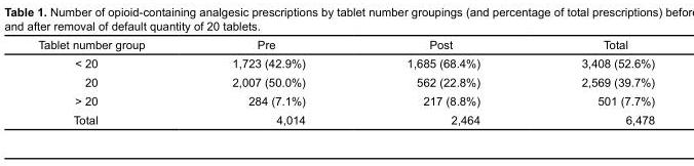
<table><thead><tr><td>Tablet number group</td><td>Pre</td><td>Post</td><td>Total</td></tr></thead><tbody><tr><td>&lt; 20</td><td>1,723 (42.9%)</td><td>1,685 (68.4%)</td><td>3,408 (52.6%)</td></tr><tr><td>20</td><td>2,007 (50.0%)</td><td>562 (22.8%)</td><td>2,569 (39.7%)</td></tr><tr><td>&gt; 20</td><td>284 (7.1%)</td><td>217 (8.8%)</td><td>501 (7.7%)</td></tr><tr><td>Total</td><td>4,014</td><td>2,464</td><td>6,478</td></tr></tbody></table>